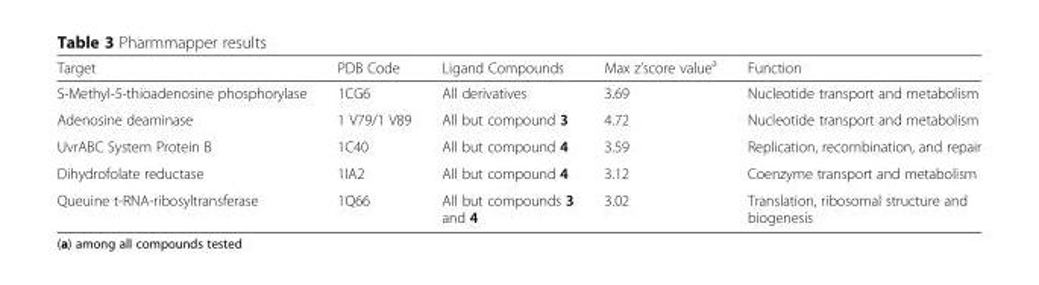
<table><thead><tr><td>Target</td><td>PDB Code</td><td>Ligand Compounds</td><td>Max z’score value<sup>a</sup></td><td>Function</td></tr></thead><tbody><tr><td>S-Methyl-5-thioadenosine phosphorylase</td><td>1CG6</td><td>All derivatives</td><td>3.69</td><td>Nucleotide transport and metabolism</td></tr><tr><td>Adenosine deaminase</td><td>1 V79/1 V89</td><td>All but compound 3</td><td>4.72</td><td>Nucleotide transport and metabolism</td></tr><tr><td>UvrABC System Protein B</td><td>1C40</td><td>All but compound 4</td><td>3.59</td><td>Replication, recombination, and repair</td></tr><tr><td>Dihydrofolate reductase</td><td>1IA2</td><td>All but compound 4</td><td>3.12</td><td>Coenzyme transport and metabolism</td></tr><tr><td>Queuine t-RNA-ribosyltransferase</td><td>1Q66</td><td>All but compounds 3 and 4</td><td>3.02</td><td>Translation, ribosomal structure and biogenesis</td></tr></tbody></table>